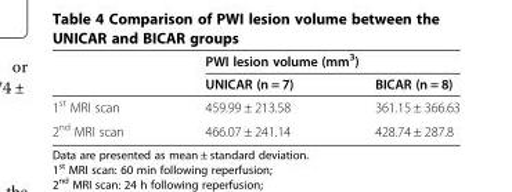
<table><thead><tr><td rowspan="2"></td><td colspan="2">PWI lesion volume (mm<sup>3</sup>)</td></tr><tr><td>UNICAR (n = 7)</td><td>BICAR (n = 8)</td></tr></thead><tbody><tr><td>1<sup>st</sup> MRI scan</td><td>459.99 ± 213.58</td><td>361.15 ± 366.63</td></tr><tr><td>2<sup>nd</sup> MRI scan</td><td>466.07 ± 241.14</td><td>428.74 ± 287.8</td></tr></tbody></table>